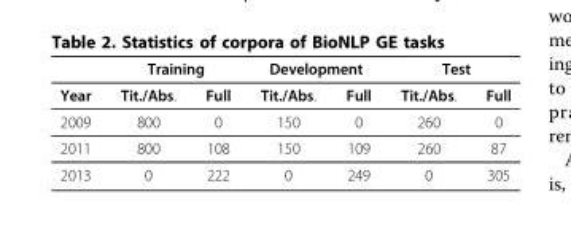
<table><thead><tr><td rowspan="2">Year</td><td colspan="2">Training</td><td colspan="2">Development</td><td colspan="2">Test</td></tr><tr><td>Tit./Abs.</td><td>Full</td><td>Tit./Abs.</td><td>Full</td><td>Tit./Abs.</td><td>Full</td></tr></thead><tbody><tr><td>2009</td><td>800</td><td>0</td><td>150</td><td>0</td><td>260</td><td>0</td></tr><tr><td>2011</td><td>800</td><td>108</td><td>150</td><td>109</td><td>260</td><td>87</td></tr><tr><td>2013</td><td>0</td><td>222</td><td>0</td><td>249</td><td>0</td><td>305</td></tr></tbody></table>